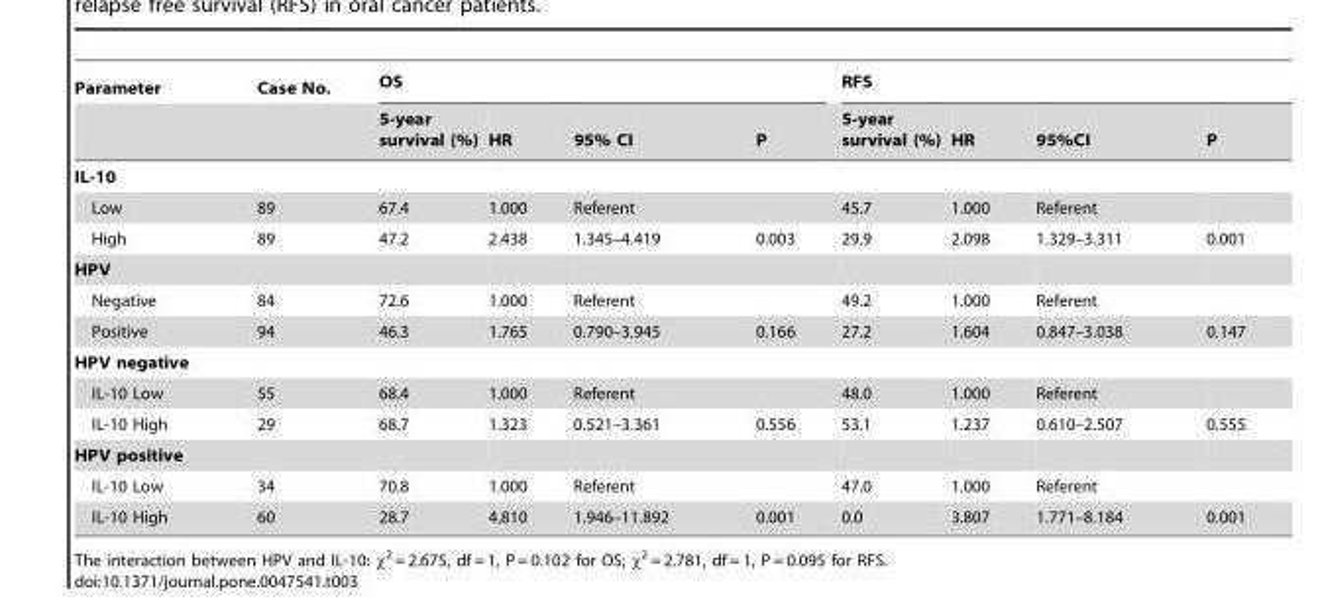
<table><thead><tr><td rowspan="2">Parameter</td><td rowspan="2">Case No.</td><td colspan="4">OS</td><td colspan="4">RFS</td></tr><tr><td>5-year survival (%)</td><td>HR</td><td>95% CI</td><td>P</td><td>5-year survival (%)</td><td>HR</td><td>95%CI</td><td>P</td></tr></thead><tbody><tr><td colspan="10">IL-10</td></tr><tr><td>Low</td><td>89</td><td>67.4</td><td>1.000</td><td>Referent</td><td></td><td>45.7</td><td>1.000</td><td>Referent</td><td></td></tr><tr><td>High</td><td>89</td><td>47.2</td><td>2.438</td><td>1.345–4.419</td><td>0.003</td><td>29.9</td><td>2.098</td><td>1.329–3.311</td><td>0.001</td></tr><tr><td colspan="10">HPV</td></tr><tr><td>Negative</td><td>84</td><td>72.6</td><td>1.000</td><td>Referent</td><td></td><td>49.2</td><td>1.000</td><td>Referent</td><td></td></tr><tr><td>Positive</td><td>94</td><td>46.3</td><td>1.765</td><td>0.790–3.945</td><td>0.166</td><td>27.2</td><td>1.604</td><td>0.847–3.038</td><td>0.147</td></tr><tr><td colspan="10">HPV negative</td></tr><tr><td>IL-10 Low</td><td>55</td><td>68.4</td><td>1.000</td><td>Referent</td><td></td><td>48.0</td><td>1.000</td><td>Referent</td><td></td></tr><tr><td>IL-10 High</td><td>29</td><td>68.7</td><td>1.323</td><td>0.521–3.361</td><td>0.556</td><td>53.1</td><td>1.237</td><td>0.610–2.507</td><td>0.555</td></tr><tr><td colspan="10">HPV positive</td></tr><tr><td>IL-10 Low</td><td>34</td><td>70.8</td><td>1.000</td><td>Referent</td><td></td><td>47.0</td><td>1.000</td><td>Referent</td><td></td></tr><tr><td>IL-10 High</td><td>60</td><td>28.7</td><td>4.810</td><td>1.946–11.892</td><td>0.001</td><td>0.0</td><td>3.807</td><td>1.771–8.184</td><td>0.001</td></tr></tbody></table>